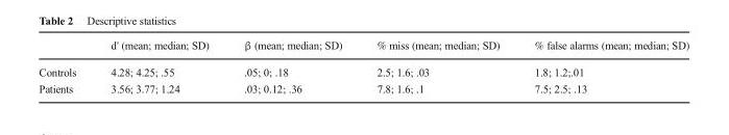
<table><thead><tr><td></td><td>d&#x27; (mean; median; SD)</td><td>β (mean; median; SD)</td><td>% miss (mean; median; SD)</td><td>% false alarms (mean; median; SD)</td></tr></thead><tbody><tr><td>Controls</td><td>4.28; 4.25; .55</td><td>.05; 0; .18</td><td>2.5; 1.6; .03</td><td>1.8; 1.2;.01</td></tr><tr><td>Patients</td><td>3.56; 3.77; 1.24</td><td>.03; 0.12; .36</td><td>7.8; 1.6; .1</td><td>7.5; 2.5; .13</td></tr></tbody></table>